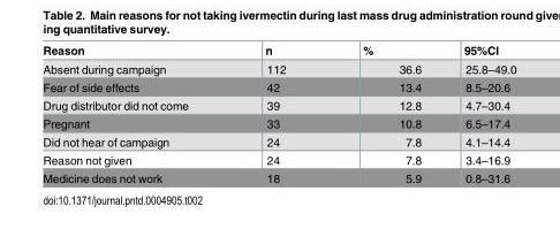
<table><thead><tr><td>Reason</td><td>n</td><td>%</td><td>95%CI</td></tr></thead><tbody><tr><td>Absent during campaign</td><td>112</td><td>36.6</td><td>25.8–49.0</td></tr><tr><td>Fear of side effects</td><td>42</td><td>13.4</td><td>8.5–20.6</td></tr><tr><td>Drug distributor did not come</td><td>39</td><td>12.8</td><td>4.7–30.4</td></tr><tr><td>Pregnant</td><td>33</td><td>10.8</td><td>6.5–17.4</td></tr><tr><td>Did not hear of campaign</td><td>24</td><td>7.8</td><td>4.1–14.4</td></tr><tr><td>Reason not given</td><td>24</td><td>7.8</td><td>3.4–16.9</td></tr><tr><td>Medicine does not work</td><td>18</td><td>5.9</td><td>0.8–31.6</td></tr></tbody></table>